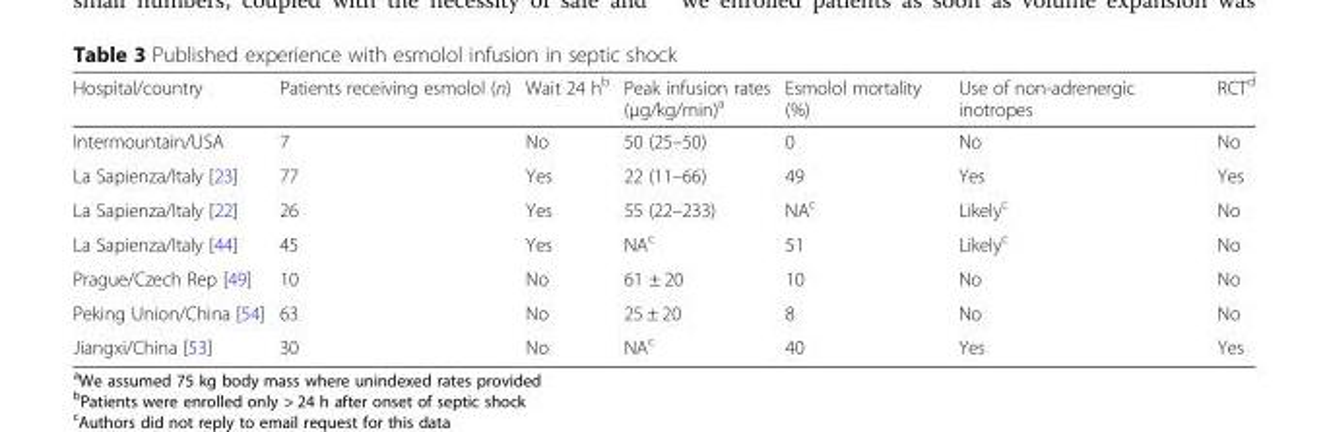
<table><thead><tr><td>Hospital/country</td><td>Patients receiving esmolol (n)</td><td>Wait 24 h<sup>b</sup></td><td>Peak infusion rates (μg/kg/min)<sup>a</sup></td><td>Esmolol mortality (%)</td><td>Use of non-adrenergic inotropes</td><td>RCT<sup>d</sup></td></tr></thead><tbody><tr><td>Intermountain/USA</td><td>7</td><td>No</td><td>50 (25–50)</td><td>0</td><td>No</td><td>No</td></tr><tr><td>La Sapienza/Italy [23]</td><td>77</td><td>Yes</td><td>22 (11–66)</td><td>49</td><td>Yes</td><td>Yes</td></tr><tr><td>La Sapienza/Italy [22]</td><td>26</td><td>Yes</td><td>55 (22–233)</td><td>NA<sup>c</sup></td><td>Likely<sup>c</sup></td><td>No</td></tr><tr><td>La Sapienza/Italy [44]</td><td>45</td><td>Yes</td><td>NA<sup>c</sup></td><td>51</td><td>Likely<sup>c</sup></td><td>No</td></tr><tr><td>Prague/Czech Rep [49]</td><td>10</td><td>No</td><td>61 ± 20</td><td>10</td><td>No</td><td>No</td></tr><tr><td>Peking Union/China [54]</td><td>63</td><td>No</td><td>25 ± 20</td><td>8</td><td>No</td><td>No</td></tr><tr><td>Jiangxi/China [53]</td><td>30</td><td>No</td><td>NA<sup>c</sup></td><td>40</td><td>Yes</td><td>Yes</td></tr></tbody></table>